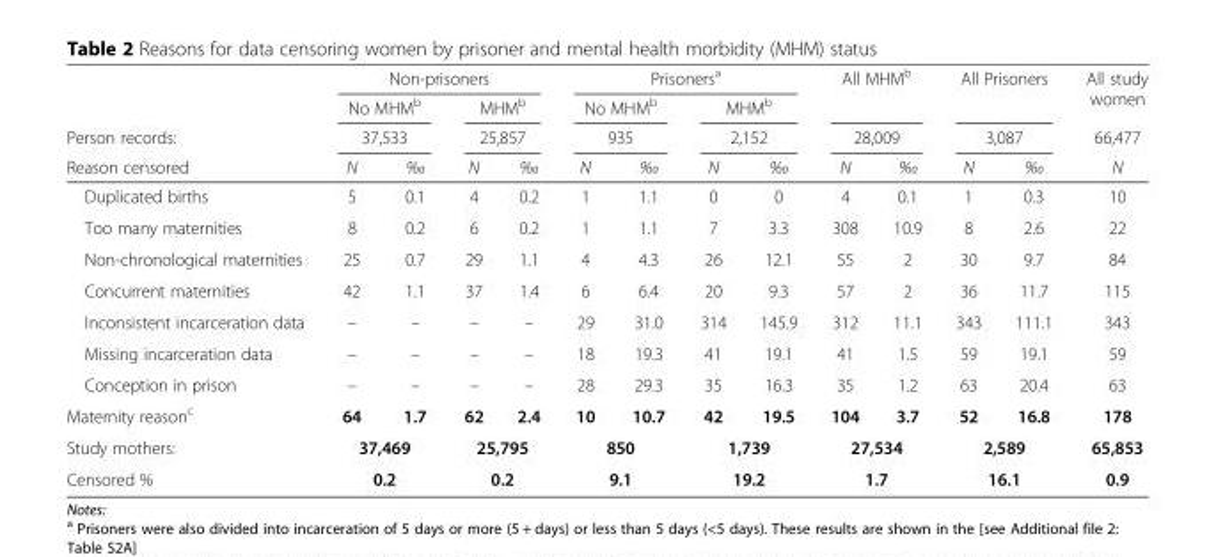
<table><thead><tr><td rowspan="4">Person records: Reason censored</td><td colspan="4">Non-prisoners</td><td colspan="4">Prisoners<sup>a</sup></td><td rowspan="3" colspan="2">All MHM<sup>b</sup> 28,009</td><td rowspan="3" colspan="2">All Prisoners 3,087</td><td rowspan="4">All study women 66,477 N</td></tr><tr><td rowspan="2" colspan="2">No MHM<sup>b</sup> 37,533</td><td rowspan="2" colspan="2">MHM<sup>b</sup> 25,857</td><td rowspan="2" colspan="2">No MHM<sup>b</sup> 935</td><td rowspan="2" colspan="2">MHM<sup>b</sup> 2,152</td></tr><tr></tr><tr><td>N</td><td>‰</td><td>N</td><td>‰</td><td>N</td><td>‰</td><td>N</td><td>‰</td><td>N</td><td>‰</td><td>N</td><td>‰</td></tr></thead><tbody><tr><td>Duplicated births</td><td>5</td><td>0.1</td><td>4</td><td>0.2</td><td>1</td><td>1.1</td><td>0</td><td>0</td><td>4</td><td>0.1</td><td>1</td><td>0.3</td><td>10</td></tr><tr><td>Too many maternities</td><td>8</td><td>0.2</td><td>6</td><td>0.2</td><td>1</td><td>1.1</td><td>7</td><td>3.3</td><td>308</td><td>10.9</td><td>8</td><td>2.6</td><td>22</td></tr><tr><td>Non-chronological maternities</td><td>25</td><td>0.7</td><td>29</td><td>1.1</td><td>4</td><td>4.3</td><td>26</td><td>12.1</td><td>55</td><td>2</td><td>30</td><td>9.7</td><td>84</td></tr><tr><td>Concurrent maternities</td><td>42</td><td>1.1</td><td>37</td><td>1.4</td><td>6</td><td>6.4</td><td>20</td><td>9.3</td><td>57</td><td>2</td><td>36</td><td>11.7</td><td>115</td></tr><tr><td>Inconsistent incarceration data</td><td>–</td><td>–</td><td>–</td><td>–</td><td>29</td><td>31.0</td><td>314</td><td>145.9</td><td>312</td><td>11.1</td><td>343</td><td>111.1</td><td>343</td></tr><tr><td>Missing incarceration data</td><td>–</td><td>–</td><td>–</td><td>–</td><td>18</td><td>19.3</td><td>41</td><td>19.1</td><td>41</td><td>1.5</td><td>59</td><td>19.1</td><td>59</td></tr><tr><td>Conception in prison</td><td>–</td><td>–</td><td>–</td><td>–</td><td>28</td><td>29.3</td><td>35</td><td>16.3</td><td>35</td><td>1.2</td><td>63</td><td>20.4</td><td>63</td></tr><tr><td>Maternity reason<sup>c</sup></td><td>64</td><td>1.7</td><td>62</td><td>2.4</td><td>10</td><td>10.7</td><td>42</td><td>19.5</td><td>104</td><td>3.7</td><td>52</td><td>16.8</td><td>178</td></tr><tr><td>Study mothers:</td><td colspan="2">37,469</td><td colspan="2">25,795</td><td colspan="2">850</td><td colspan="2">1,739</td><td colspan="2">27,534</td><td colspan="2">2,589</td><td>65,853</td></tr><tr><td>Censored %</td><td colspan="2">0.2</td><td colspan="2">0.2</td><td colspan="2">9.1</td><td colspan="2">19.2</td><td colspan="2">1.7</td><td colspan="2">16.1</td><td>0.9</td></tr></tbody></table>